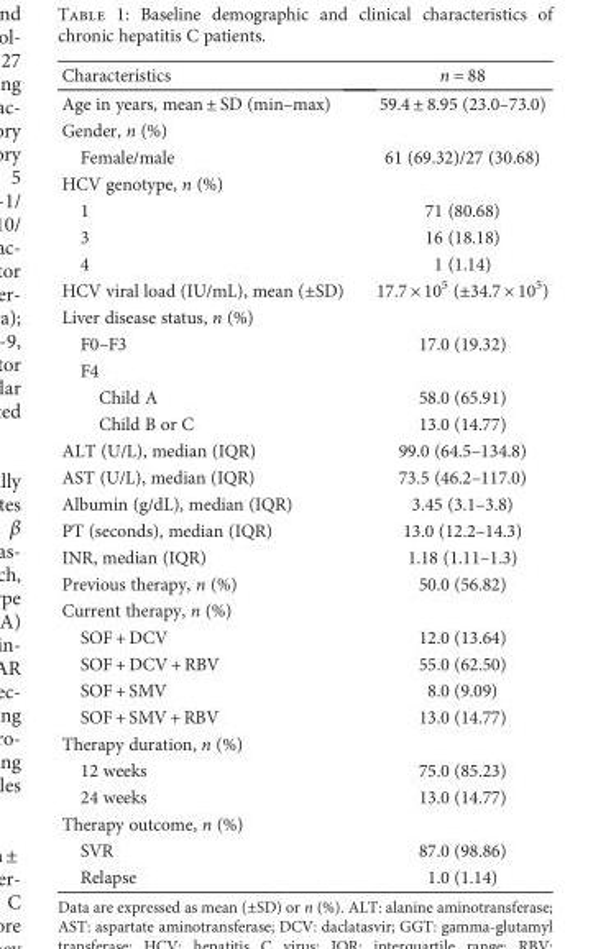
<table><thead><tr><td>Characteristics</td><td>n = 88</td></tr></thead><tbody><tr><td>Age in years, mean ± SD (min–max)</td><td>59.4 ± 8.95 (23.0–73.0)</td></tr><tr><td colspan="2">Gender, n (%)</td></tr><tr><td>Female/male</td><td>61 (69.32)/27 (30.68)</td></tr><tr><td colspan="2">HCV genotype, n (%)</td></tr><tr><td>1</td><td>71 (80.68)</td></tr><tr><td>3</td><td>16 (18.18)</td></tr><tr><td>4</td><td>1 (1.14)</td></tr><tr><td>HCV viral load (IU/mL), mean (±SD)</td><td>17.7 × 10<sup>5</sup> (±34.7 × 10<sup>5</sup>)</td></tr><tr><td colspan="2">Liver disease status, n (%)</td></tr><tr><td>F0–F3</td><td>17.0 (19.32)</td></tr><tr><td colspan="2">F4</td></tr><tr><td>Child A</td><td>58.0 (65.91)</td></tr><tr><td>Child B or C</td><td>13.0 (14.77)</td></tr><tr><td>ALT (U/L), median (IQR)</td><td>99.0 (64.5–134.8)</td></tr><tr><td>AST (U/L), median (IQR)</td><td>73.5 (46.2–117.0)</td></tr><tr><td>Albumin (g/dL), median (IQR)</td><td>3.45 (3.1–3.8)</td></tr><tr><td>PT (seconds), median (IQR)</td><td>13.0 (12.2–14.3)</td></tr><tr><td>INR, median (IQR)</td><td>1.18 (1.11–1.3)</td></tr><tr><td>Previous therapy, n (%)</td><td>50.0 (56.82)</td></tr><tr><td colspan="2">Current therapy, n (%)</td></tr><tr><td>SOF + DCV</td><td>12.0 (13.64)</td></tr><tr><td>SOF + DCV + RBV</td><td>55.0 (62.50)</td></tr><tr><td>SOF + SMV</td><td>8.0 (9.09)</td></tr><tr><td>SOF + SMV + RBV</td><td>13.0 (14.77)</td></tr><tr><td colspan="2">Therapy duration, n (%)</td></tr><tr><td>12 weeks</td><td>75.0 (85.23)</td></tr><tr><td>24 weeks</td><td>13.0 (14.77)</td></tr><tr><td colspan="2">Therapy outcome, n (%)</td></tr><tr><td>SVR</td><td>87.0 (98.86)</td></tr><tr><td>Relapse</td><td>1.0 (1.14)</td></tr></tbody></table>